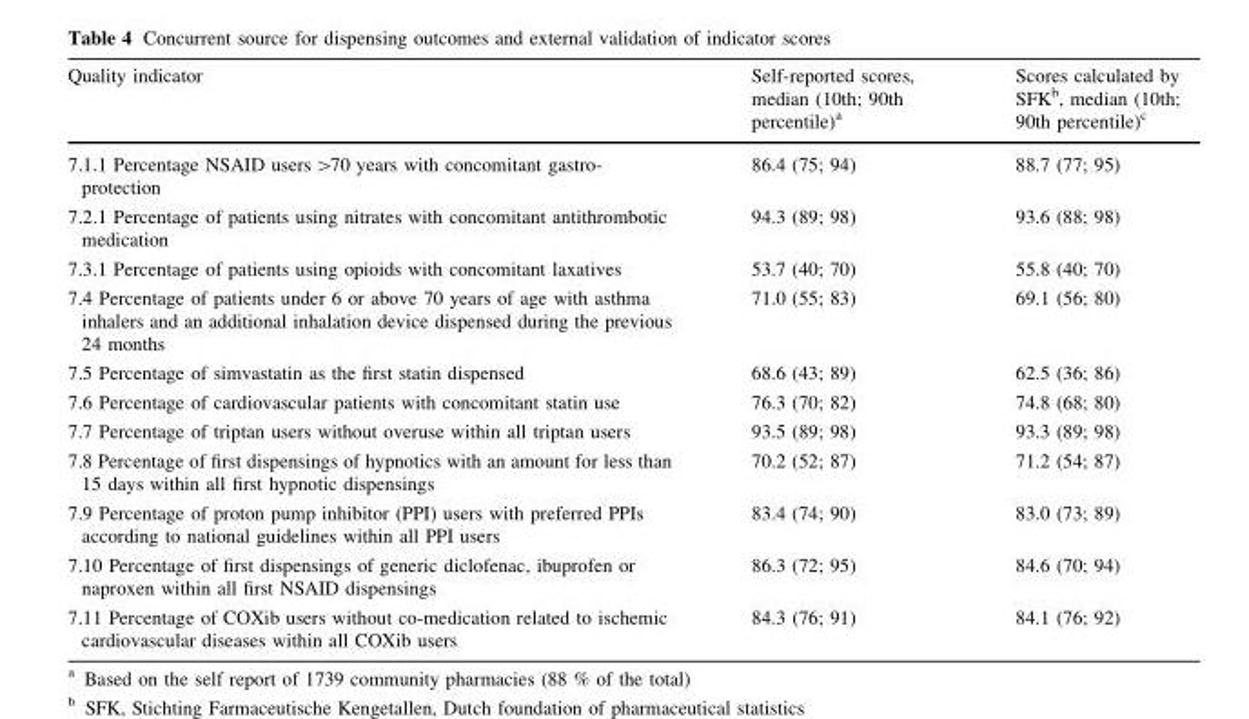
<table><thead><tr><td>Quality indicator</td><td>Self-reported scores, median (10th; 90th percentile)<sup>a</sup></td><td>Scores calculated by SFK<sup>b</sup>, median (10th; 90th percentile)<sup>c</sup></td></tr></thead><tbody><tr><td>7.1.1 Percentage NSAID users &gt;70 years with concomitant gastro- protection</td><td>86.4 (75; 94)</td><td>88.7 (77; 95)</td></tr><tr><td>7.2.1 Percentage of patients using nitrates with concomitant antithrombotic medication</td><td>94.3 (89; 98)</td><td>93.6 (88; 98)</td></tr><tr><td>7.3.1 Percentage of patients using opioids with concomitant laxatives</td><td>53.7 (40; 70)</td><td>55.8 (40; 70)</td></tr><tr><td>7.4 Percentage of patients under 6 or above 70 years of age with asthma inhalers and an additional inhalation device dispensed during the previous 24 months</td><td>71.0 (55; 83)</td><td>69.1 (56; 80)</td></tr><tr><td>7.5 Percentage of simvastatin as the first statin dispensed</td><td>68.6 (43; 89)</td><td>62.5 (36; 86)</td></tr><tr><td>7.6 Percentage of cardiovascular patients with concomitant statin use</td><td>76.3 (70; 82)</td><td>74.8 (68; 80)</td></tr><tr><td>7.7 Percentage of triptan users without overuse within all triptan users</td><td>93.5 (89; 98)</td><td>93.3 (89; 98)</td></tr><tr><td>7.8 Percentage of first dispensings of hypnotics with an amount for less than 15 days within all first hypnotic dispensings</td><td>70.2 (52; 87)</td><td>71.2 (54; 87)</td></tr><tr><td>7.9 Percentage of proton pump inhibitor (PPI) users with preferred PPIs according to national guidelines within all PPI users</td><td>83.4 (74; 90)</td><td>83.0 (73; 89)</td></tr><tr><td>7.10 Percentage of first dispensings of generic diclofenac, ibuprofen or naproxen within all first NSAID dispensings</td><td>86.3 (72; 95)</td><td>84.6 (70; 94)</td></tr><tr><td>7.11 Percentage of COXib users without co-medication related to ischemic cardiovascular diseases within all COXib users</td><td>84.3 (76; 91)</td><td>84.1 (76; 92)</td></tr></tbody></table>